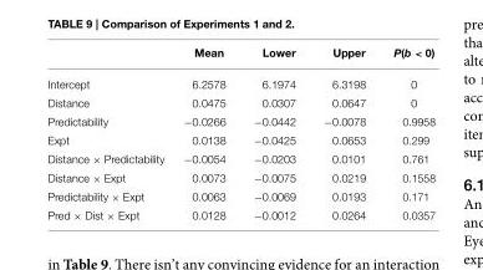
<table><thead><tr><td></td><td>Mean</td><td>Lower</td><td>Upper</td><td>P(b &lt; 0)</td></tr></thead><tbody><tr><td>Intercept</td><td>6.2578</td><td>6.1974</td><td>6.3198</td><td>0</td></tr><tr><td>Distance</td><td>0.0475</td><td>0.0307</td><td>0.0647</td><td>0</td></tr><tr><td>Predictability</td><td>−0.0266</td><td>−0.0442</td><td>−0.0078</td><td>0.9958</td></tr><tr><td>Expt</td><td>0.0138</td><td>−0.0425</td><td>0.0653</td><td>0.299</td></tr><tr><td>Distance × Predictability</td><td>−0.0054</td><td>−0.0203</td><td>0.0101</td><td>0.761</td></tr><tr><td>Distance × Expt</td><td>0.0073</td><td>−0.0075</td><td>0.0219</td><td>0.1558</td></tr><tr><td>Predictability × Expt</td><td>0.0063</td><td>−0.0069</td><td>0.0193</td><td>0.171</td></tr><tr><td>Pred × Dist × Expt</td><td>0.0128</td><td>−0.0012</td><td>0.0264</td><td>0.0357</td></tr></tbody></table>